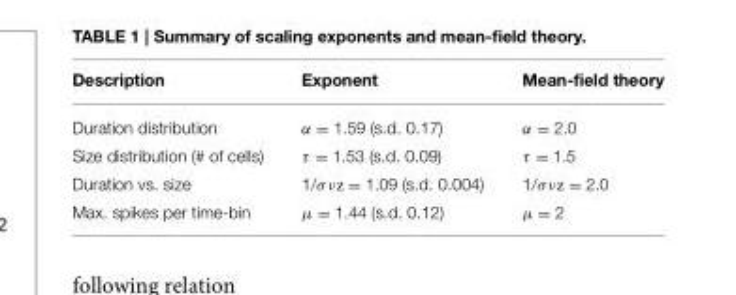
<table><thead><tr><td>Description</td><td>Exponent</td><td>Mean-field theory</td></tr></thead><tbody><tr><td>Duration distribution</td><td>α = 1.59 (s.d. 0.17)</td><td>α = 2.0</td></tr><tr><td>Size distribution (# of cells)</td><td>τ = 1.53 (s.d. 0.09)</td><td>τ = 1.5</td></tr><tr><td>Duration vs. size</td><td>1/σνz = 1.09 (s.d. 0.004)</td><td>1/σνz = 2.0</td></tr><tr><td>Max. spikes per time-bin</td><td>µ = 1.44 (s.d. 0.12)</td><td>µ = 2</td></tr></tbody></table>